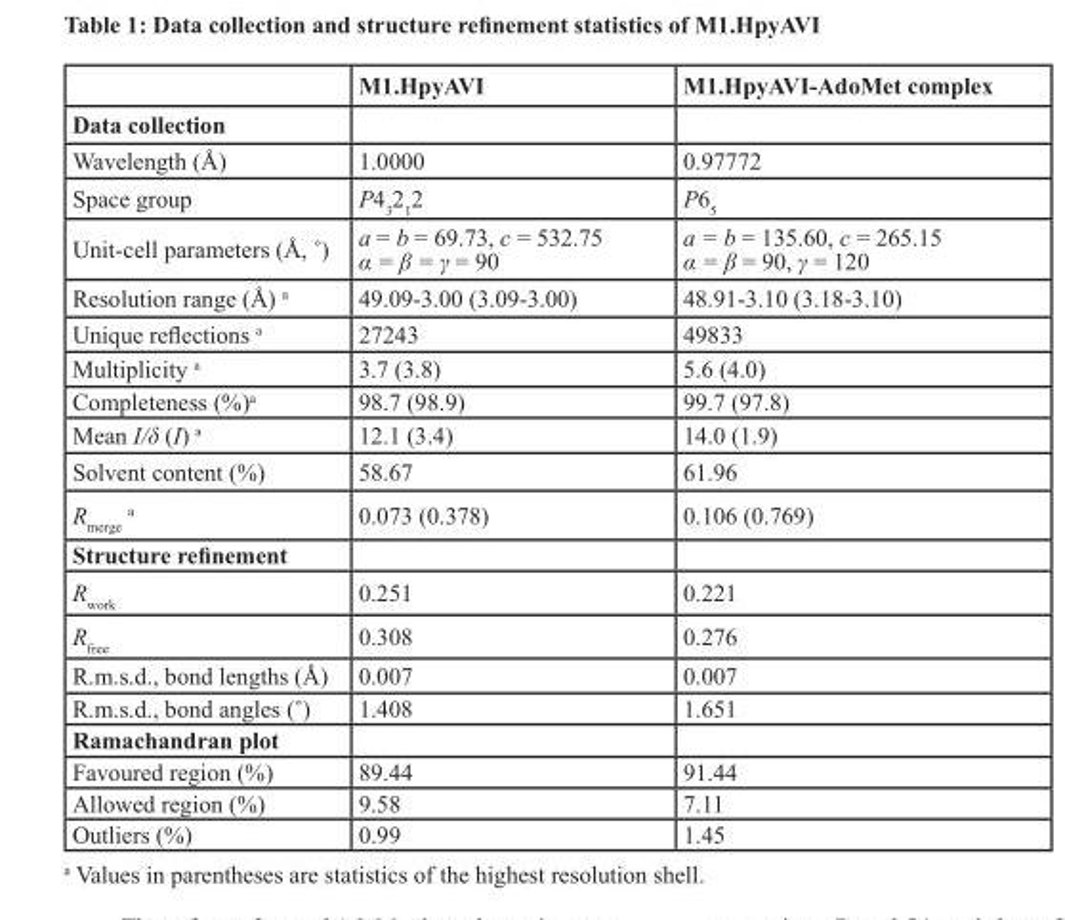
<table><thead><tr><td></td><td>M1.HpyAVI</td><td>M1.HpyAVI-AdoMet complex</td></tr></thead><tbody><tr><td colspan="3">Data collection</td></tr><tr><td>Wavelength (Å)</td><td>1.0000</td><td>0.97772</td></tr><tr><td>Space group</td><td>P4<sub>3</sub>2<sub>1</sub>2</td><td>P6<sub>5</sub></td></tr><tr><td>Unit-cell parameters (Å, ˚)</td><td>a = b = 69.73, c = 532.75 α = β = γ = 90</td><td>a = b = 135.60, c = 265.15 α = β = 90, γ = 120</td></tr><tr><td>Resolution range (Å) <sup>a</sup></td><td>49.09-3.00 (3.09-3.00)</td><td>48.91-3.10 (3.18-3.10)</td></tr><tr><td>Unique reflections <sup>a</sup></td><td>27243</td><td>49833</td></tr><tr><td>Multiplicity <sup>a</sup></td><td>3.7 (3.8)</td><td>5.6 (4.0)</td></tr><tr><td>Completeness (%)<sup>a</sup></td><td>98.7 (98.9)</td><td>99.7 (97.8)</td></tr><tr><td>Mean I/δ (I) <sup>a</sup></td><td>12.1 (3.4)</td><td>14.0 (1.9)</td></tr><tr><td>Solvent content (%)</td><td>58.67</td><td>61.96</td></tr><tr><td>R<sub>merge</sub> <sup>a</sup></td><td>0.073 (0.378)</td><td>0.106 (0.769)</td></tr><tr><td colspan="3">Structure refinement</td></tr><tr><td>R<sub>work</sub></td><td>0.251</td><td>0.221</td></tr><tr><td>R<sub>free</sub></td><td>0.308</td><td>0.276</td></tr><tr><td>R.m.s.d., bond lengths (Å)</td><td>0.007</td><td>0.007</td></tr><tr><td>R.m.s.d., bond angles (˚)</td><td>1.408</td><td>1.651</td></tr><tr><td colspan="3">Ramachandran plot</td></tr><tr><td>Favoured region (%)</td><td>89.44</td><td>91.44</td></tr><tr><td>Allowed region (%)</td><td>9.58</td><td>7.11</td></tr><tr><td>Outliers (%)</td><td>0.99</td><td>1.45</td></tr></tbody></table>